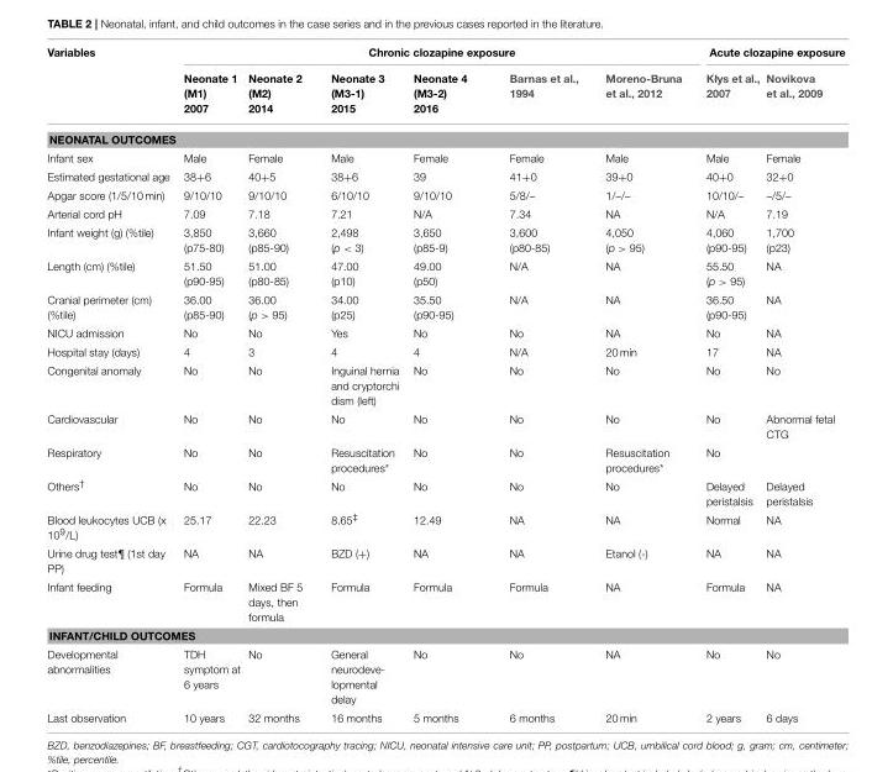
<table><thead><tr><td rowspan="2">Variables</td><td colspan="6">Chronic clozapine exposure</td><td colspan="2">Acute clozapine exposure</td></tr><tr><td>Neonate 1 (M1) 2007</td><td>Neonate 2 (M2) 2014</td><td>Neonate 3 (M3-1) 2015</td><td>Neonate 4 (M3-2) 2016</td><td>Barnas et al., 1994</td><td>Moreno-Bruna et al., 2012</td><td>Kłys et al., 2007</td><td>Novikova et al., 2009</td></tr></thead><tbody><tr><td colspan="9">NEONATAL OUTCOMES</td></tr><tr><td>Infant sex</td><td>Male</td><td>Female</td><td>Male</td><td>Female</td><td>Female</td><td>Male</td><td>Male</td><td>Female</td></tr><tr><td>Estimated gestational age</td><td>38+6</td><td>40+5</td><td>38+6</td><td>39</td><td>41+0</td><td>39+0</td><td>40+0</td><td>32+0</td></tr><tr><td>Apgar score (1/5/10 min)</td><td>9/10/10</td><td>9/10/10</td><td>6/10/10</td><td>9/10/10</td><td>5/8/–</td><td>1/–/–</td><td>10/10/–</td><td>–/5/–</td></tr><tr><td>Arterial cord pH</td><td>7.09</td><td>7.18</td><td>7.21</td><td>N/A</td><td>7.34</td><td>NA</td><td>N/A</td><td>7.19</td></tr><tr><td>Infant weight (g) (%tile)</td><td>3,850 (p75-80)</td><td>3,660 (p85-90)</td><td>2,498 (p &lt; 3)</td><td>3,650 (p85-9)</td><td>3,600 (p80-85)</td><td>4,050 (p &gt; 95)</td><td>4,060 (p90-95)</td><td>1,700 (p23)</td></tr><tr><td>Length (cm) (%tile)</td><td>51.50 (p90-95)</td><td>51.00 (p80-85)</td><td>47.00 (p10)</td><td>49.00 (p50)</td><td>N/A</td><td>NA</td><td>55.50 (p &gt; 95)</td><td>NA</td></tr><tr><td>Cranial perimeter (cm) (%tile)</td><td>36.00 (p85-90)</td><td>36.00 (p &gt; 95)</td><td>34.00 (p25)</td><td>35.50 (p90-95)</td><td>N/A</td><td>NA</td><td>36.50 (p90-95)</td><td>NA</td></tr><tr><td>NICU admission</td><td>No</td><td>No</td><td>Yes</td><td>No</td><td>No</td><td>NA</td><td>No</td><td>NA</td></tr><tr><td>Hospital stay (days)</td><td>4</td><td>3</td><td>4</td><td>4</td><td>N/A</td><td>20 min</td><td>17</td><td>NA</td></tr><tr><td>Congenital anomaly</td><td>No</td><td>No</td><td>Inguinal hernia and cryptorchi dism (left)</td><td>No</td><td>No</td><td>No</td><td>No</td><td>No</td></tr><tr><td>Cardiovascular</td><td>No</td><td>No</td><td>No</td><td>No</td><td>No</td><td>No</td><td>No</td><td>Abnormal fetal CTG</td></tr><tr><td>Respiratory</td><td>No</td><td>No</td><td>Resuscitation procedures*</td><td>No</td><td>No</td><td>Resuscitation procedures*</td><td>No</td><td></td></tr><tr><td>Others<sup>†</sup></td><td>No</td><td>No</td><td>No</td><td>No</td><td>No</td><td>No</td><td>Delayed peristalsis</td><td>Delayed peristalsis</td></tr><tr><td>Blood leukocytes UCB (x 10<sup>9</sup>/L)</td><td>25.17</td><td>22.23</td><td>8.65<sup>‡</sup></td><td>12.49</td><td>NA</td><td>NA</td><td>Normal</td><td>NA</td></tr><tr><td>Urine drug test<sup>¶</sup> (1st day PP)</td><td>NA</td><td>NA</td><td>BZD (+)</td><td>NA</td><td>NA</td><td>Etanol (-)</td><td>NA</td><td>NA</td></tr><tr><td>Infant feeding</td><td>Formula</td><td>Mixed BF 5 days, then formula</td><td>Formula</td><td>Formula</td><td>Formula</td><td>NA</td><td>Formula</td><td>NA</td></tr><tr><td colspan="9">INFANT/CHILD OUTCOMES</td></tr><tr><td>Developmental abnormalities</td><td>TDH symptom at 6 years</td><td>No</td><td>General neurodeve- lopmental delay</td><td>No</td><td>No</td><td>NA</td><td>No</td><td>No</td></tr><tr><td>Last observation</td><td>10 years</td><td>32 months</td><td>16 months</td><td>5 months</td><td>6 months</td><td>20 min</td><td>2 years</td><td>6 days</td></tr></tbody></table>